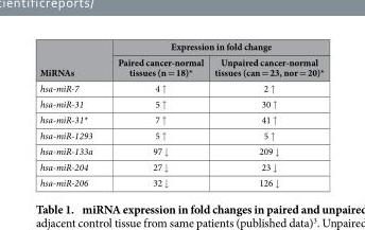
<table><thead><tr><td rowspan="2">MiRNAs</td><td colspan="2">Expression in fold change</td></tr><tr><td>Paired cancer-normal tissues (n = 18)*</td><td>Unpaired cancer-normal tissues (can = 23, nor = 20)*</td></tr></thead><tbody><tr><td>hsa-miR-7</td><td>4 ↑</td><td>2 ↑</td></tr><tr><td>hsa-miR-31</td><td>5 ↑</td><td>30 ↑</td></tr><tr><td>hsa-miR-31*</td><td>7 ↑</td><td>41 ↑</td></tr><tr><td>hsa-miR-1293</td><td>5 ↑</td><td>5 ↑</td></tr><tr><td>hsa-miR-133a</td><td>97 ↓</td><td>209 ↓</td></tr><tr><td>hsa-miR-204</td><td>27 ↓</td><td>23 ↓</td></tr><tr><td>hsa-miR-206</td><td>32 ↓</td><td>126 ↓</td></tr></tbody></table>